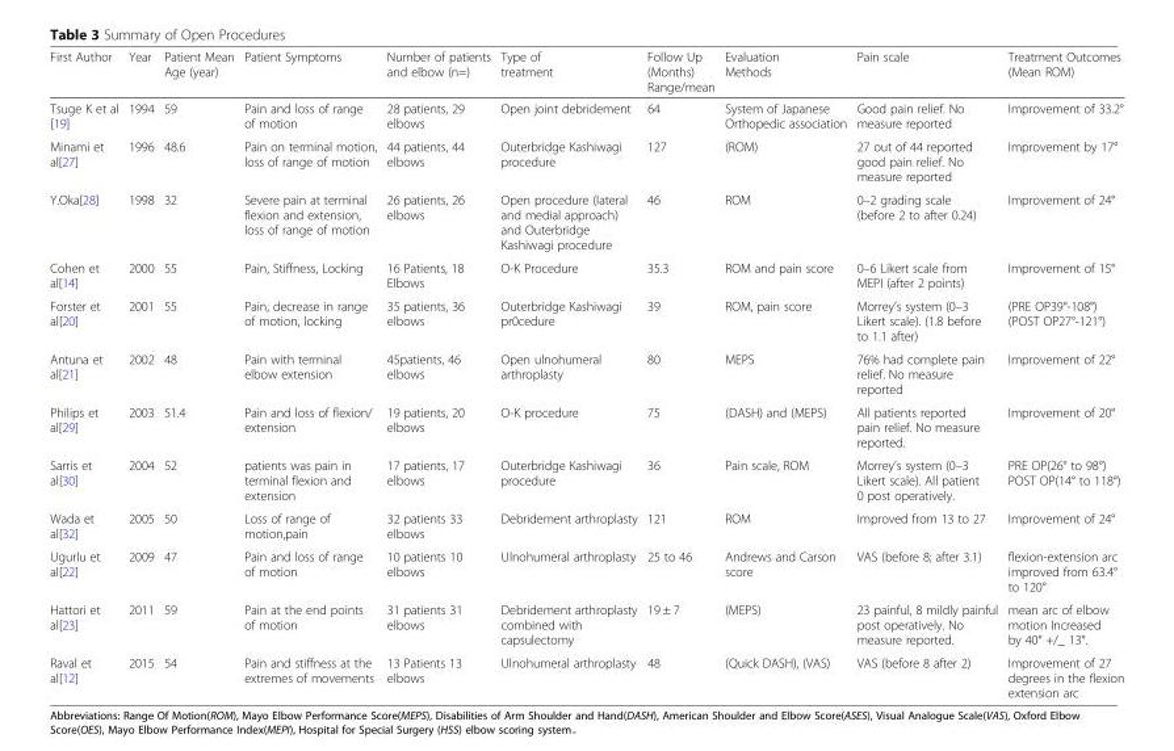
<table><thead><tr><td>First Author</td><td>Year</td><td>Patient Mean Age (year)</td><td>Patient Symptoms</td><td>Number of patients and elbow (n=)</td><td>Type of treatment</td><td>Follow Up (Months) Range/mean</td><td>Evaluation Methods</td><td>Pain scale</td><td>Treatment Outcomes (Mean ROM)</td></tr></thead><tbody><tr><td>Tsuge K et al [19]</td><td>1994</td><td>59</td><td>Pain and loss of range of motion</td><td>28 patients, 29 elbows</td><td>Open joint debridement</td><td>64</td><td>System of Japanese Orthopedic association</td><td>Good pain relief. No measure reported</td><td>Improvement of 33.2°</td></tr><tr><td>Minami et al[27]</td><td>1996</td><td>48.6</td><td>Pain on terminal motion, loss of range of motion</td><td>44 patients, 44 elbows</td><td>Outerbridge Kashiwagi procedure</td><td>127</td><td>(ROM)</td><td>27 out of 44 reported good pain relief. No measure reported</td><td>Improvement by 17°</td></tr><tr><td>Y.Oka[28]</td><td>1998</td><td>32</td><td>Severe pain at terminal flexion and extension, loss of range of motion</td><td>26 patients, 26 elbows</td><td>Open procedure (lateral and medial approach) and Outerbridge Kashiwagi procedure</td><td>46</td><td>ROM</td><td>0–2 grading scale (before 2 to after 0.24)</td><td>Improvement of 24°</td></tr><tr><td>Cohen et al[14]</td><td>2000</td><td>55</td><td>Pain, Stiffness, Locking</td><td>16 Patients, 18 Elbows</td><td>O-K Procedure</td><td>35.3</td><td>ROM and pain score</td><td>0–6 Likert scale from MEPI (after 2 points)</td><td>Improvement of 15°</td></tr><tr><td>Forster et al[20]</td><td>2001</td><td>55</td><td>Pain, decrease in range of motion, locking</td><td>35 patients, 36 elbows</td><td>Outerbridge Kashiwagi pr0cedure</td><td>39</td><td>ROM, pain score</td><td>Morrey’s system (0–3 Likert scale). (1.8 before to 1.1 after)</td><td>(PRE OP39°-108°) (POST OP27°-121°)</td></tr><tr><td>Antuna et al[21]</td><td>2002</td><td>48</td><td>Pain with terminal elbow extension</td><td>45patients, 46 elbows</td><td>Open ulnohumeral arthroplasty</td><td>80</td><td>MEPS</td><td>76% had complete pain relief. No measure reported</td><td>Improvement of 22°</td></tr><tr><td>Philips et al[29]</td><td>2003</td><td>51.4</td><td>Pain and loss of flexion/ extension</td><td>19 patients, 20 elbows</td><td>O-K procedure</td><td>75</td><td>(DASH) and (MEPS)</td><td>All patients reported pain relief. No measure reported.</td><td>Improvement of 20°</td></tr><tr><td>Sarris et al[30]</td><td>2004</td><td>52</td><td>patients was pain in terminal flexion and extension</td><td>17 patients, 17 elbows</td><td>Outerbridge Kashiwagi procedure</td><td>36</td><td>Pain scale, ROM</td><td>Morrey’s system (0–3 Likert scale). All patient 0 post operatively.</td><td>PRE OP(26° to 98°) POST OP(14° to 118°)</td></tr><tr><td>Wada et al[32]</td><td>2005</td><td>50</td><td>Loss of range of motion,pain</td><td>32 patients 33 elbows</td><td>Debridement arthroplasty</td><td>121</td><td>ROM</td><td>Improved from 13 to 27</td><td>Improvement of 24°</td></tr><tr><td>Ugurlu et al[22]</td><td>2009</td><td>47</td><td>Pain and loss of range of motion</td><td>10 patients 10 elbows</td><td>Ulnohumeral arthroplasty</td><td>25 to 46</td><td>Andrews and Carson score</td><td>VAS (before 8; after 3.1)</td><td>flexion-extension arc improved from 63.4° to 120°</td></tr><tr><td>Hattori et al[23]</td><td>2011</td><td>59</td><td>Pain at the end points of motion</td><td>31 patients 31 elbows</td><td>Debridement arthroplasty combined with capsulectomy</td><td>19 ± 7</td><td>(MEPS)</td><td>23 painful, 8 mildly painful post operatively. No measure reported.</td><td>mean arc of elbow motion Increased by 40° +/_ 13°.</td></tr><tr><td>Raval et al[12]</td><td>2015</td><td>54</td><td>Pain and stiffness at the extremes of movements</td><td>13 Patients 13 elbows</td><td>Ulnohumeral arthroplasty</td><td>48</td><td>(Quick DASH), (VAS)</td><td>VAS (before 8 after 2)</td><td>Improvement of 27 degrees in the flexion extension arc</td></tr></tbody></table>